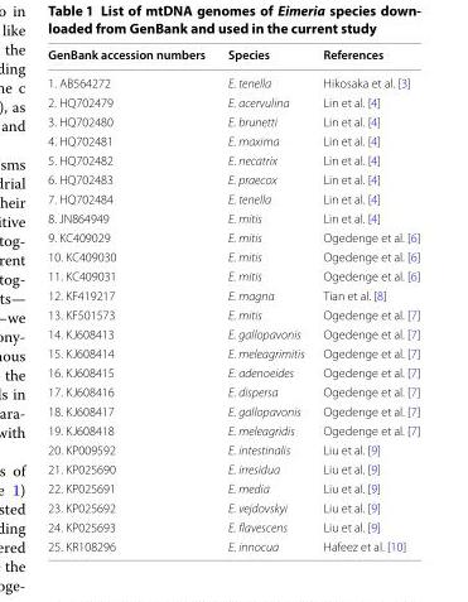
<table><thead><tr><td>GenBank accession numbers</td><td>Species</td><td>References</td></tr></thead><tbody><tr><td>1. AB564272</td><td>E. tenella</td><td>Hikosaka et al. [3]</td></tr><tr><td>2. HQ702479</td><td>E. acervulina</td><td>Lin et al. [4]</td></tr><tr><td>3. HQ702480</td><td>E. brunetti</td><td>Lin et al. [4]</td></tr><tr><td>4. HQ702481</td><td>E. maxima</td><td>Lin et al. [4]</td></tr><tr><td>5. HQ702482</td><td>E. necatrix</td><td>Lin et al. [4]</td></tr><tr><td>6. HQ702483</td><td>E. praecox</td><td>Lin et al. [4]</td></tr><tr><td>7. HQ702484</td><td>E. tenella</td><td>Lin et al. [4]</td></tr><tr><td>8. JN864949</td><td>E. mitis</td><td>Lin et al. [4]</td></tr><tr><td>9. KC409029</td><td>E. mitis</td><td>Ogedenge et al. [6]</td></tr><tr><td>10. KC409030</td><td>E. mitis</td><td>Ogedenge et al. [6]</td></tr><tr><td>11. KC409031</td><td>E. mitis</td><td>Ogedenge et al. [6]</td></tr><tr><td>12. KF419217</td><td>E. magna</td><td>Tian et al. [8]</td></tr><tr><td>13. KF501573</td><td>E. mitis</td><td>Ogedenge et al. [7]</td></tr><tr><td>14. KJ608413</td><td>E. gallopavonis</td><td>Ogedenge et al. [7]</td></tr><tr><td>15. KJ608414</td><td>E. meleagrimitis</td><td>Ogedenge et al. [7]</td></tr><tr><td>16. KJ608415</td><td>E. adenoeides</td><td>Ogedenge et al. [7]</td></tr><tr><td>17. KJ608416</td><td>E. dispersa</td><td>Ogedenge et al. [7]</td></tr><tr><td>18. KJ608417</td><td>E. gallopavonis</td><td>Ogedenge et al. [7]</td></tr><tr><td>19. KJ608418</td><td>E. meleagridis</td><td>Ogedenge et al. [7]</td></tr><tr><td>20. KP009592</td><td>E. intestinalis</td><td>Liu et al. [9]</td></tr><tr><td>21. KP025690</td><td>E. irresidua</td><td>Liu et al. [9]</td></tr><tr><td>22. KP025691</td><td>E. media</td><td>Liu et al. [9]</td></tr><tr><td>23. KP025692</td><td>E. vejdovskyi</td><td>Liu et al. [9]</td></tr><tr><td>24. KP025693</td><td>E. flavescens</td><td>Liu et al. [9]</td></tr><tr><td>25. KR108296</td><td>E. innocua</td><td>Hafeez et al. [10]</td></tr></tbody></table>